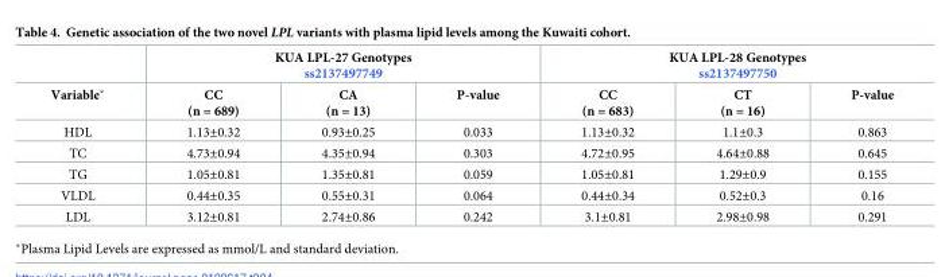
<table><thead><tr><td rowspan="2">Variable*</td><td colspan="3">KUA LPL-27 Genotypes ss2137497749</td><td colspan="3">KUA LPL-28 Genotypes ss2137497750</td></tr><tr><td>CC (n = 689)</td><td>CA (n = 13)</td><td>P-value</td><td>CC (n = 683)</td><td>CT (n = 16)</td><td>P-value</td></tr></thead><tbody><tr><td>HDL</td><td>1.13±0.32</td><td>0.93±0.25</td><td>0.033</td><td>1.13±0.32</td><td>1.1±0.3</td><td>0.863</td></tr><tr><td>TC</td><td>4.73±0.94</td><td>4.35±0.94</td><td>0.303</td><td>4.72±0.95</td><td>4.64±0.88</td><td>0.645</td></tr><tr><td>TG</td><td>1.05±0.81</td><td>1.35±0.81</td><td>0.059</td><td>1.05±0.81</td><td>1.29±0.9</td><td>0.155</td></tr><tr><td>VLDL</td><td>0.44±0.35</td><td>0.55±0.31</td><td>0.064</td><td>0.44±0.34</td><td>0.52±0.3</td><td>0.16</td></tr><tr><td>LDL</td><td>3.12±0.81</td><td>2.74±0.86</td><td>0.242</td><td>3.1±0.81</td><td>2.98±0.98</td><td>0.291</td></tr></tbody></table>